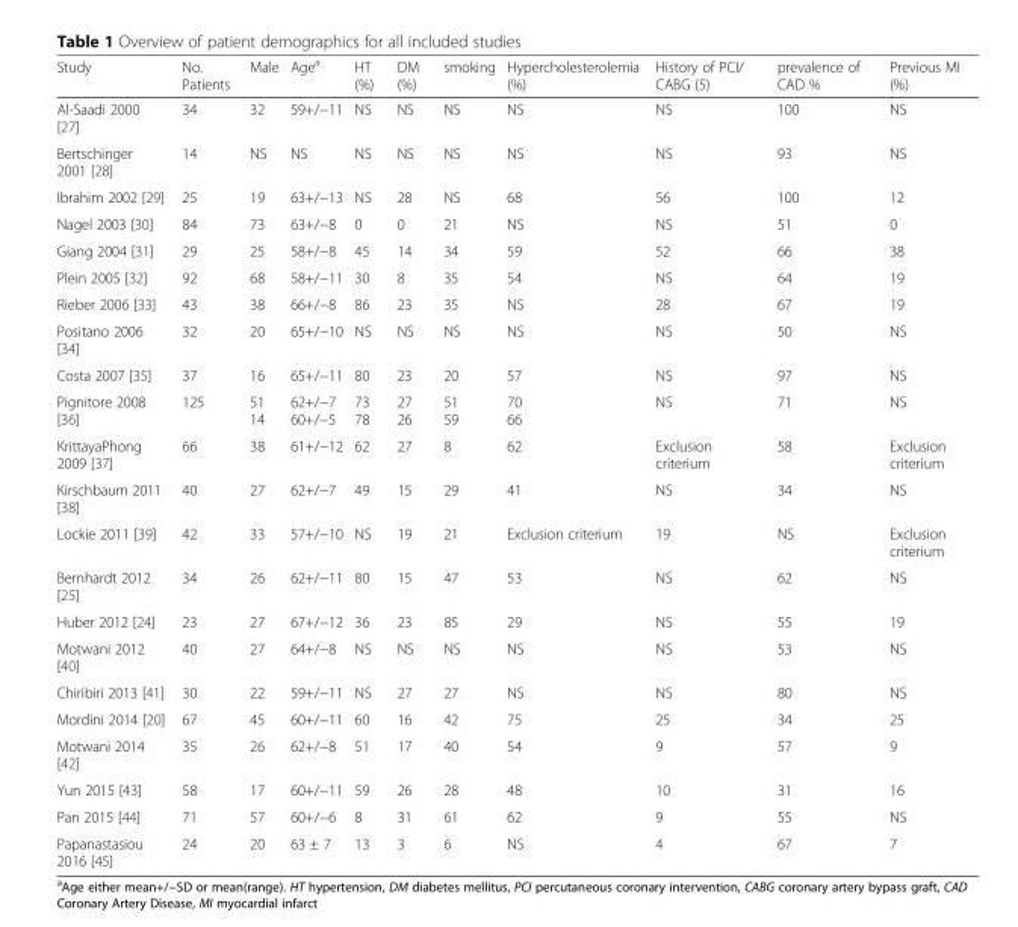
<table><thead><tr><td>Study</td><td>No. Patients</td><td>Male</td><td>Age<sup>a</sup></td><td>HT (%)</td><td>DM (%)</td><td>smoking</td><td>Hypercholesterolemia (%)</td><td>History of PCI/ CABG (5)</td><td>prevalence of CAD %</td><td>Previous MI (%)</td></tr></thead><tbody><tr><td>Al-Saadi 2000 [27]</td><td>34</td><td>32</td><td>59+/−11</td><td>NS</td><td>NS</td><td>NS</td><td>NS</td><td>NS</td><td>100</td><td>NS</td></tr><tr><td>Bertschinger 2001 [28]</td><td>14</td><td>NS</td><td>NS</td><td>NS</td><td>NS</td><td>NS</td><td>NS</td><td>NS</td><td>93</td><td>NS</td></tr><tr><td>Ibrahim 2002 [29]</td><td>25</td><td>19</td><td>63+/−13</td><td>NS</td><td>28</td><td>NS</td><td>68</td><td>56</td><td>100</td><td>12</td></tr><tr><td>Nagel 2003 [30]</td><td>84</td><td>73</td><td>63+/−8</td><td>0</td><td>0</td><td>21</td><td>NS</td><td>NS</td><td>51</td><td>0</td></tr><tr><td>Giang 2004 [31]</td><td>29</td><td>25</td><td>58+/−8</td><td>45</td><td>14</td><td>34</td><td>59</td><td>52</td><td>66</td><td>38</td></tr><tr><td>Plein 2005 [32]</td><td>92</td><td>68</td><td>58+/−11</td><td>30</td><td>8</td><td>35</td><td>54</td><td>NS</td><td>64</td><td>19</td></tr><tr><td>Rieber 2006 [33]</td><td>43</td><td>38</td><td>66+/−8</td><td>86</td><td>23</td><td>35</td><td>NS</td><td>28</td><td>67</td><td>19</td></tr><tr><td>Positano 2006 [34]</td><td>32</td><td>20</td><td>65+/−10</td><td>NS</td><td>NS</td><td>NS</td><td>NS</td><td>NS</td><td>50</td><td>NS</td></tr><tr><td>Costa 2007 [35]</td><td>37</td><td>16</td><td>65+/−11</td><td>80</td><td>23</td><td>20</td><td>57</td><td>NS</td><td>97</td><td>NS</td></tr><tr><td>Pignitore 2008 [36]</td><td>125</td><td>51 14</td><td>62+/−7 60+/−5</td><td>73 78</td><td>27 26</td><td>51 59</td><td>70 66</td><td>NS</td><td>71</td><td>NS</td></tr><tr><td>KrittayaPhong 2009 [37]</td><td>66</td><td>38</td><td>61+/−12</td><td>62</td><td>27</td><td>8</td><td>62</td><td>Exclusion criterium</td><td>58</td><td>Exclusion criterium</td></tr><tr><td>Kirschbaum 2011 [38]</td><td>40</td><td>27</td><td>62+/−7</td><td>49</td><td>15</td><td>29</td><td>41</td><td>NS</td><td>34</td><td>NS</td></tr><tr><td>Lockie 2011 [39]</td><td>42</td><td>33</td><td>57+/−10</td><td>NS</td><td>19</td><td>21</td><td>Exclusion criterium</td><td>19</td><td>NS</td><td>Exclusion criterium</td></tr><tr><td>Bernhardt 2012 [25]</td><td>34</td><td>26</td><td>62+/−11</td><td>80</td><td>15</td><td>47</td><td>53</td><td>NS</td><td>62</td><td>NS</td></tr><tr><td>Huber 2012 [24]</td><td>23</td><td>27</td><td>67+/−12</td><td>36</td><td>23</td><td>85</td><td>29</td><td>NS</td><td>55</td><td>19</td></tr><tr><td>Motwani 2012 [40]</td><td>40</td><td>27</td><td>64+/−8</td><td>NS</td><td>NS</td><td>NS</td><td>NS</td><td>NS</td><td>53</td><td>NS</td></tr><tr><td>Chiribiri 2013 [41]</td><td>30</td><td>22</td><td>59+/−11</td><td>NS</td><td>27</td><td>27</td><td>NS</td><td>NS</td><td>80</td><td>NS</td></tr><tr><td>Mordini 2014 [20]</td><td>67</td><td>45</td><td>60+/−11</td><td>60</td><td>16</td><td>42</td><td>75</td><td>25</td><td>34</td><td>25</td></tr><tr><td>Motwani 2014 [42]</td><td>35</td><td>26</td><td>62+/−8</td><td>51</td><td>17</td><td>40</td><td>54</td><td>9</td><td>57</td><td>9</td></tr><tr><td>Yun 2015 [43]</td><td>58</td><td>17</td><td>60+/−11</td><td>59</td><td>26</td><td>28</td><td>48</td><td>10</td><td>31</td><td>16</td></tr><tr><td>Pan 2015 [44]</td><td>71</td><td>57</td><td>60+/−6</td><td>8</td><td>31</td><td>61</td><td>62</td><td>9</td><td>55</td><td>NS</td></tr><tr><td>Papanastasiou 2016 [45]</td><td>24</td><td>20</td><td>63 ± 7</td><td>13</td><td>3</td><td>6</td><td>NS</td><td>4</td><td>67</td><td>7</td></tr></tbody></table>